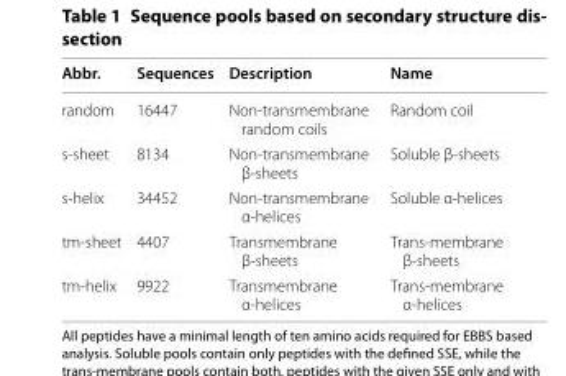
<table><thead><tr><td>Abbr.</td><td>Sequences</td><td>Description</td><td>Name</td></tr></thead><tbody><tr><td>random</td><td>16447</td><td>Non-transmembrane random coils</td><td>Random coil</td></tr><tr><td>s-sheet</td><td>8134</td><td>Non-transmembrane β-sheets</td><td>Soluble β-sheets</td></tr><tr><td>s-helix</td><td>34452</td><td>Non-transmembrane α-helices</td><td>Soluble α-helices</td></tr><tr><td>tm-sheet</td><td>4407</td><td>Transmembrane β-sheets</td><td>Trans-membrane β-sheets</td></tr><tr><td>tm-helix</td><td>9922</td><td>Transmembrane α-helices</td><td>Trans-membrane α-helices</td></tr></tbody></table>